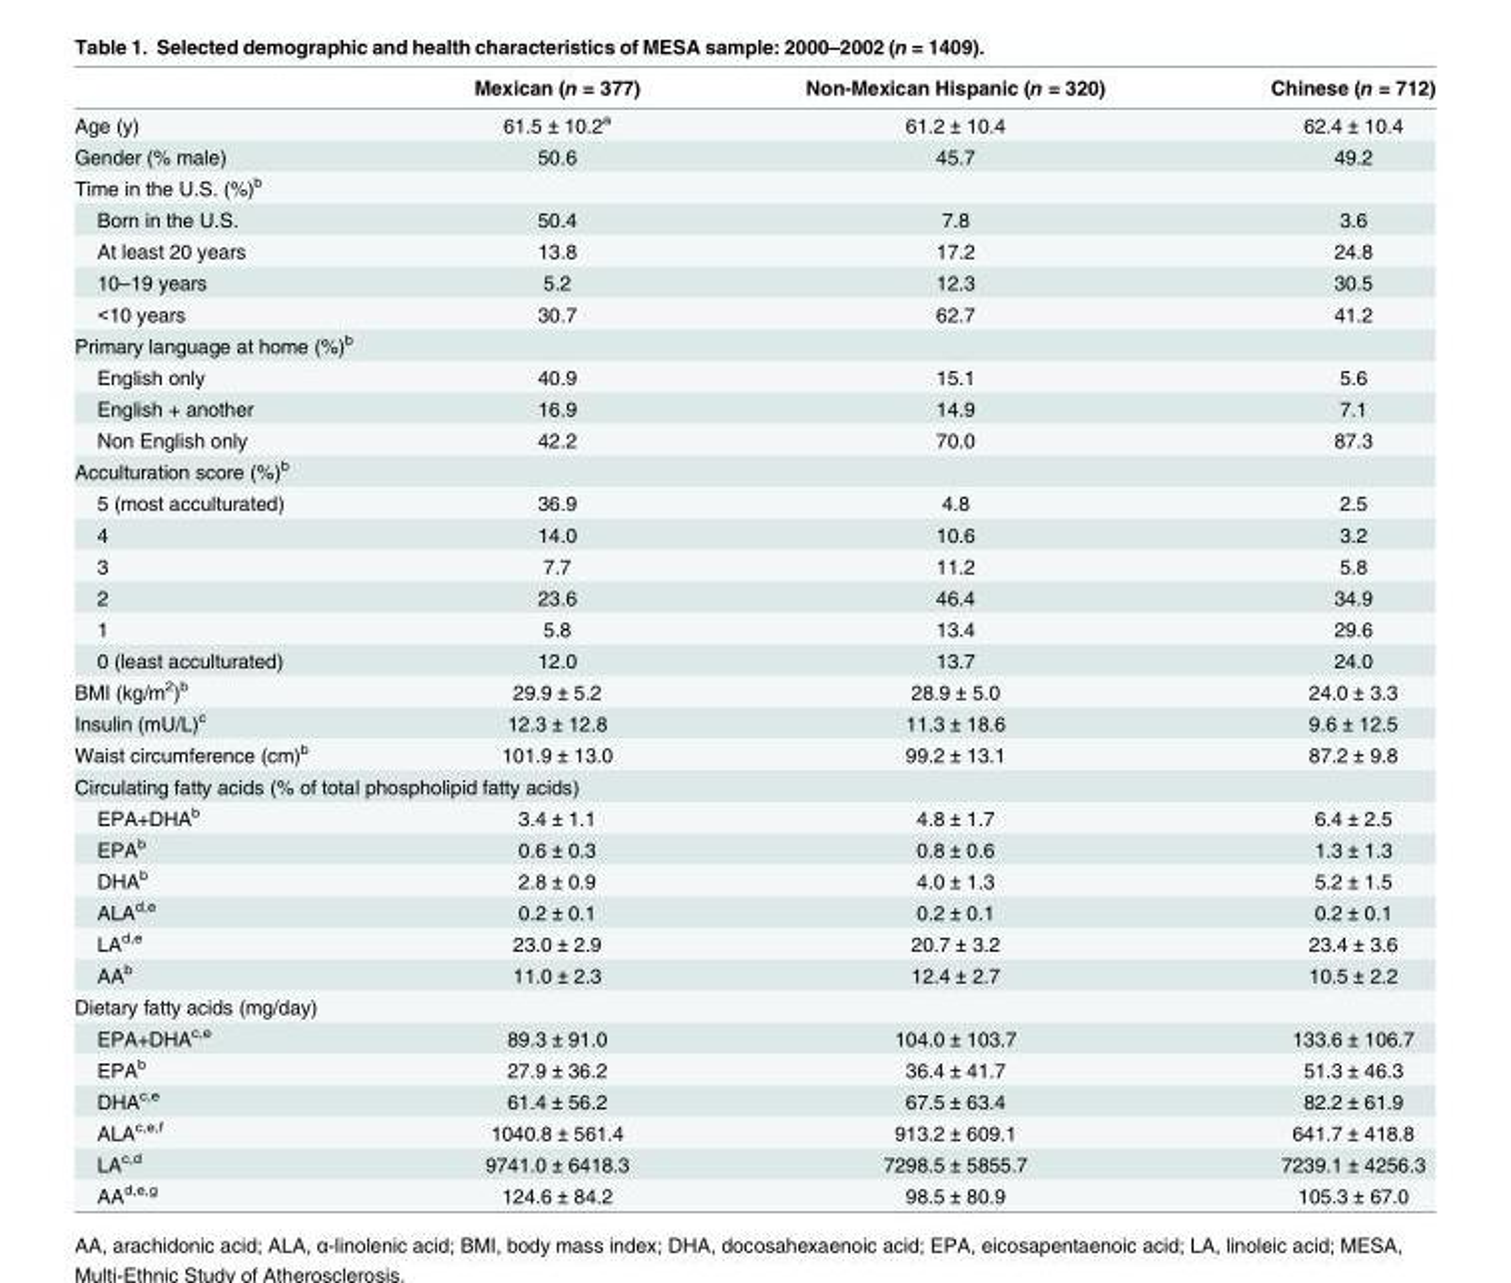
<table><thead><tr><td></td><td>Mexican (n = 377)</td><td>Non-Mexican Hispanic (n = 320)</td><td>Chinese (n = 712)</td></tr></thead><tbody><tr><td>Age (y)</td><td>61.5 ± 10.2<sup>a</sup></td><td>61.2 ± 10.4</td><td>62.4 ± 10.4</td></tr><tr><td>Gender (% male)</td><td>50.6</td><td>45.7</td><td>49.2</td></tr><tr><td colspan="4">Time in the U.S. (%)<sup>b</sup></td></tr><tr><td>Born in the U.S.</td><td>50.4</td><td>7.8</td><td>3.6</td></tr><tr><td>At least 20 years</td><td>13.8</td><td>17.2</td><td>24.8</td></tr><tr><td>10–19 years</td><td>5.2</td><td>12.3</td><td>30.5</td></tr><tr><td>&lt;10 years</td><td>30.7</td><td>62.7</td><td>41.2</td></tr><tr><td colspan="4">Primary language at home (%)<sup>b</sup></td></tr><tr><td>English only</td><td>40.9</td><td>15.1</td><td>5.6</td></tr><tr><td>English + another</td><td>16.9</td><td>14.9</td><td>7.1</td></tr><tr><td>Non English only</td><td>42.2</td><td>70.0</td><td>87.3</td></tr><tr><td colspan="4">Acculturation score (%)<sup>b</sup></td></tr><tr><td>5 (most acculturated)</td><td>36.9</td><td>4.8</td><td>2.5</td></tr><tr><td>4</td><td>14.0</td><td>10.6</td><td>3.2</td></tr><tr><td>3</td><td>7.7</td><td>11.2</td><td>5.8</td></tr><tr><td>2</td><td>23.6</td><td>46.4</td><td>34.9</td></tr><tr><td>1</td><td>5.8</td><td>13.4</td><td>29.6</td></tr><tr><td>0 (least acculturated)</td><td>12.0</td><td>13.7</td><td>24.0</td></tr><tr><td>BMI (kg/m<sup>2</sup>)<sup>b</sup></td><td>29.9 ± 5.2</td><td>28.9 ± 5.0</td><td>24.0 ± 3.3</td></tr><tr><td>Insulin (mU/L)<sup>c</sup></td><td>12.3 ± 12.8</td><td>11.3 ± 18.6</td><td>9.6 ± 12.5</td></tr><tr><td>Waist circumference (cm)<sup>b</sup></td><td>101.9 ± 13.0</td><td>99.2 ± 13.1</td><td>87.2 ± 9.8</td></tr><tr><td colspan="4">Circulating fatty acids (% of total phospholipid fatty acids)</td></tr><tr><td>EPA+DHA<sup>b</sup></td><td>3.4 ± 1.1</td><td>4.8 ± 1.7</td><td>6.4 ± 2.5</td></tr><tr><td>EPA<sup>b</sup></td><td>0.6 ± 0.3</td><td>0.8 ± 0.6</td><td>1.3 ± 1.3</td></tr><tr><td>DHA<sup>b</sup></td><td>2.8 ± 0.9</td><td>4.0 ± 1.3</td><td>5.2 ± 1.5</td></tr><tr><td>ALA<sup>d,e</sup></td><td>0.2 ± 0.1</td><td>0.2 ± 0.1</td><td>0.2 ± 0.1</td></tr><tr><td>LA<sup>d,e</sup></td><td>23.0 ± 2.9</td><td>20.7 ± 3.2</td><td>23.4 ± 3.6</td></tr><tr><td>AA<sup>b</sup></td><td>11.0 ± 2.3</td><td>12.4 ± 2.7</td><td>10.5 ± 2.2</td></tr><tr><td colspan="4">Dietary fatty acids (mg/day)</td></tr><tr><td>EPA+DHA<sup>c,e</sup></td><td>89.3 ± 91.0</td><td>104.0 ± 103.7</td><td>133.6 ± 106.7</td></tr><tr><td>EPA<sup>b</sup></td><td>27.9 ± 36.2</td><td>36.4 ± 41.7</td><td>51.3 ± 46.3</td></tr><tr><td>DHA<sup>c,e</sup></td><td>61.4 ± 56.2</td><td>67.5 ± 63.4</td><td>82.2 ± 61.9</td></tr><tr><td>ALA<sup>c,e,f</sup></td><td>1040.8 ± 561.4</td><td>913.2 ± 609.1</td><td>641.7 ± 418.8</td></tr><tr><td>LA<sup>c,d</sup></td><td>9741.0 ± 6418.3</td><td>7298.5 ± 5855.7</td><td>7239.1 ± 4256.3</td></tr><tr><td>AA<sup>d,e,g</sup></td><td>124.6 ± 84.2</td><td>98.5 ± 80.9</td><td>105.3 ± 67.0</td></tr></tbody></table>